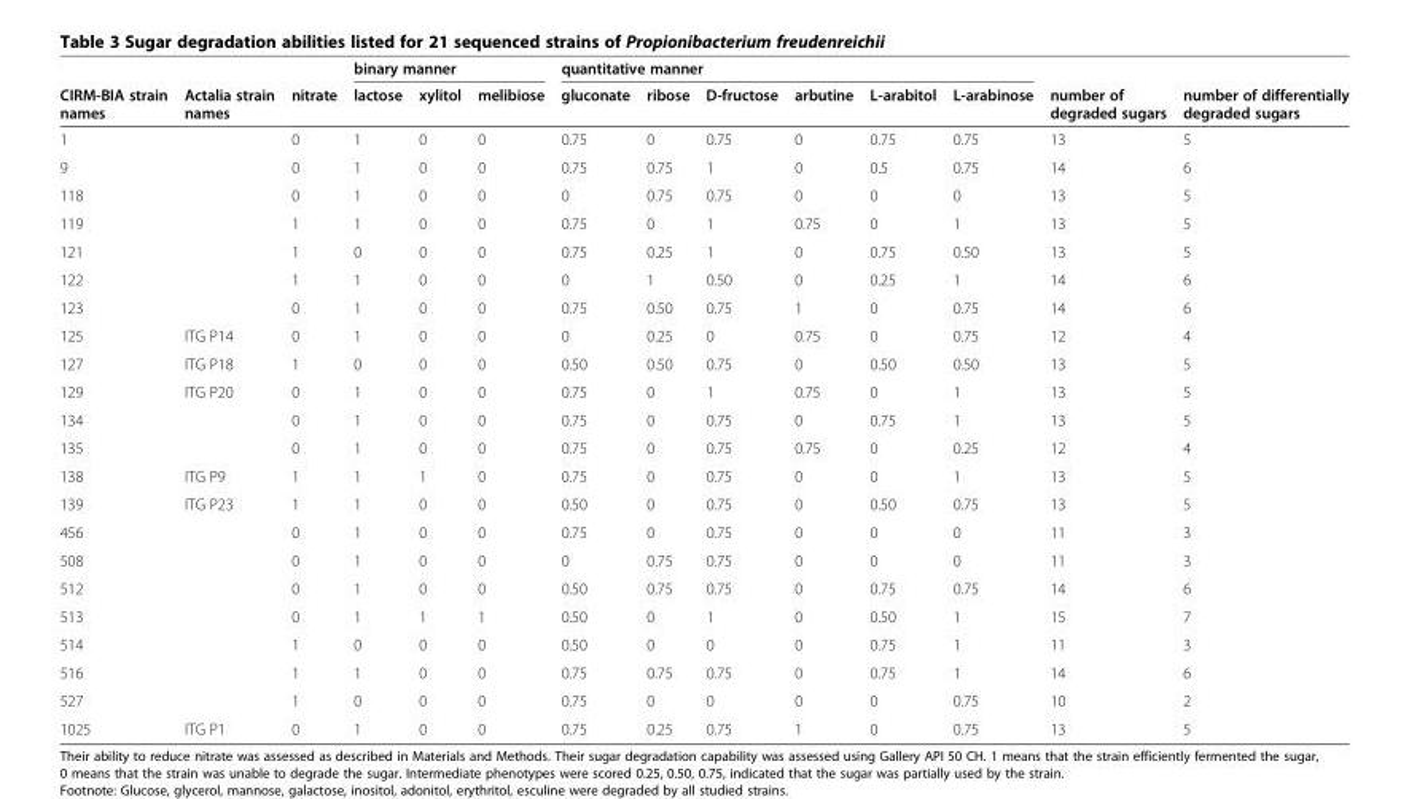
<table><thead><tr><td rowspan="2">CIRM-BIA strain names</td><td rowspan="2">Actalia strain names</td><td rowspan="2">nitrate</td><td colspan="3">binary manner</td><td colspan="6">quantitative manner</td><td rowspan="2">number of degraded sugars</td><td rowspan="2">number of differentially degraded sugars</td></tr><tr><td>lactose</td><td>xylitol</td><td>melibiose</td><td>gluconate</td><td>ribose</td><td>D-fructose</td><td>arbutine</td><td>L-arabitol</td><td>L-arabinose</td></tr></thead><tbody><tr><td>1</td><td></td><td>0</td><td>1</td><td>0</td><td>0</td><td>0.75</td><td>0</td><td>0.75</td><td>0</td><td>0.75</td><td>0.75</td><td>13</td><td>5</td></tr><tr><td>9</td><td></td><td>0</td><td>1</td><td>0</td><td>0</td><td>0.75</td><td>0.75</td><td>1</td><td>0</td><td>0.5</td><td>0.75</td><td>14</td><td>6</td></tr><tr><td>118</td><td></td><td>0</td><td>1</td><td>0</td><td>0</td><td>0</td><td>0.75</td><td>0.75</td><td>0</td><td>0</td><td>0</td><td>13</td><td>5</td></tr><tr><td>119</td><td></td><td>1</td><td>1</td><td>0</td><td>0</td><td>0.75</td><td>0</td><td>1</td><td>0.75</td><td>0</td><td>1</td><td>13</td><td>5</td></tr><tr><td>121</td><td></td><td>1</td><td>0</td><td>0</td><td>0</td><td>0.75</td><td>0.25</td><td>1</td><td>0</td><td>0.75</td><td>0.50</td><td>13</td><td>5</td></tr><tr><td>122</td><td></td><td>1</td><td>1</td><td>0</td><td>0</td><td>0</td><td>1</td><td>0.50</td><td>0</td><td>0.25</td><td>1</td><td>14</td><td>6</td></tr><tr><td>123</td><td></td><td>0</td><td>1</td><td>0</td><td>0</td><td>0.75</td><td>0.50</td><td>0.75</td><td>1</td><td>0</td><td>0.75</td><td>14</td><td>6</td></tr><tr><td>125</td><td>ITG P14</td><td>0</td><td>1</td><td>0</td><td>0</td><td>0</td><td>0.25</td><td>0</td><td>0.75</td><td>0</td><td>0.75</td><td>12</td><td>4</td></tr><tr><td>127</td><td>ITG P18</td><td>1</td><td>0</td><td>0</td><td>0</td><td>0.50</td><td>0.50</td><td>0.75</td><td>0</td><td>0.50</td><td>0.50</td><td>13</td><td>5</td></tr><tr><td>129</td><td>ITG P20</td><td>0</td><td>1</td><td>0</td><td>0</td><td>0.75</td><td>0</td><td>1</td><td>0.75</td><td>0</td><td>1</td><td>13</td><td>5</td></tr><tr><td>134</td><td></td><td>0</td><td>1</td><td>0</td><td>0</td><td>0.75</td><td>0</td><td>0.75</td><td>0</td><td>0.75</td><td>1</td><td>13</td><td>5</td></tr><tr><td>135</td><td></td><td>0</td><td>1</td><td>0</td><td>0</td><td>0.75</td><td>0</td><td>0.75</td><td>0.75</td><td>0</td><td>0.25</td><td>12</td><td>4</td></tr><tr><td>138</td><td>ITG P9</td><td>1</td><td>1</td><td>1</td><td>0</td><td>0.75</td><td>0</td><td>0.75</td><td>0</td><td>0</td><td>1</td><td>13</td><td>5</td></tr><tr><td>139</td><td>ITG P23</td><td>1</td><td>1</td><td>0</td><td>0</td><td>0.50</td><td>0</td><td>0.75</td><td>0</td><td>0.50</td><td>0.75</td><td>13</td><td>5</td></tr><tr><td>456</td><td></td><td>0</td><td>1</td><td>0</td><td>0</td><td>0.75</td><td>0</td><td>0.75</td><td>0</td><td>0</td><td>0</td><td>11</td><td>3</td></tr><tr><td>508</td><td></td><td>0</td><td>1</td><td>0</td><td>0</td><td>0</td><td>0.75</td><td>0.75</td><td>0</td><td>0</td><td>0</td><td>11</td><td>3</td></tr><tr><td>512</td><td></td><td>0</td><td>1</td><td>0</td><td>0</td><td>0.50</td><td>0.75</td><td>0.75</td><td>0</td><td>0.75</td><td>0.75</td><td>14</td><td>6</td></tr><tr><td>513</td><td></td><td>0</td><td>1</td><td>1</td><td>1</td><td>0.50</td><td>0</td><td>1</td><td>0</td><td>0.50</td><td>1</td><td>15</td><td>7</td></tr><tr><td>514</td><td></td><td>1</td><td>0</td><td>0</td><td>0</td><td>0.50</td><td>0</td><td>0</td><td>0</td><td>0.75</td><td>1</td><td>11</td><td>3</td></tr><tr><td>516</td><td></td><td>1</td><td>1</td><td>0</td><td>0</td><td>0.75</td><td>0.75</td><td>0.75</td><td>0</td><td>0.75</td><td>1</td><td>14</td><td>6</td></tr><tr><td>527</td><td></td><td>1</td><td>0</td><td>0</td><td>0</td><td>0.75</td><td>0</td><td>0</td><td>0</td><td>0</td><td>0.75</td><td>10</td><td>2</td></tr><tr><td>1025</td><td>ITG P1</td><td>0</td><td>1</td><td>0</td><td>0</td><td>0.75</td><td>0.25</td><td>0.75</td><td>1</td><td>0</td><td>0.75</td><td>13</td><td>5</td></tr></tbody></table>